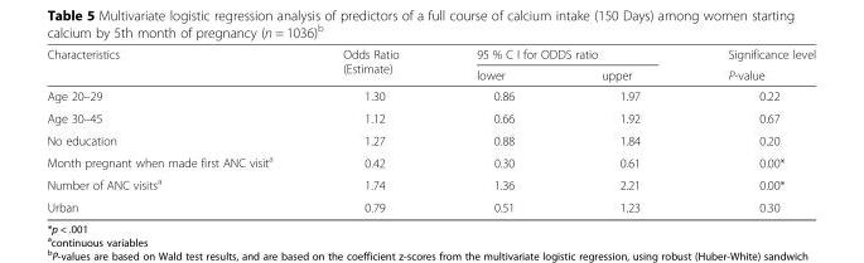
<table><thead><tr><td rowspan="2">Characteristics</td><td rowspan="2">Odds Ratio (Estimate)</td><td colspan="2">95 % C I for ODDS ratio</td><td rowspan="2">Significance level P-value</td></tr><tr><td>lower</td><td>upper</td></tr></thead><tbody><tr><td>Age 20–29</td><td>1.30</td><td>0.86</td><td>1.97</td><td>0.22</td></tr><tr><td>Age 30–45</td><td>1.12</td><td>0.66</td><td>1.92</td><td>0.67</td></tr><tr><td>No education</td><td>1.27</td><td>0.88</td><td>1.84</td><td>0.20</td></tr><tr><td>Month pregnant when made first ANC visit<sup>a</sup></td><td>0.42</td><td>0.30</td><td>0.61</td><td>0.00*</td></tr><tr><td>Number of ANC visits<sup>a</sup></td><td>1.74</td><td>1.36</td><td>2.21</td><td>0.00*</td></tr><tr><td>Urban</td><td>0.79</td><td>0.51</td><td>1.23</td><td>0.30</td></tr></tbody></table>